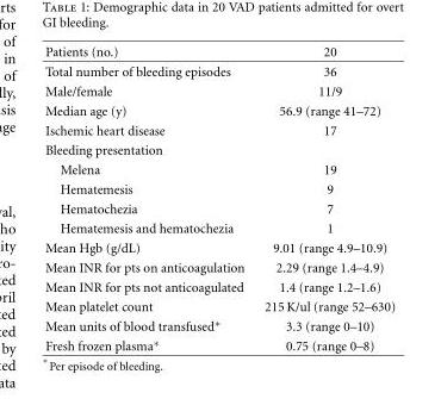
<table><thead><tr><td>Patients (no.)</td><td>20</td></tr></thead><tbody><tr><td>Total number of bleeding episodes</td><td>36</td></tr><tr><td>Male/female</td><td>11/9</td></tr><tr><td>Median age (y)</td><td>56.9 (range 41–72)</td></tr><tr><td>Ischemic heart disease</td><td>17</td></tr><tr><td colspan="2">Bleeding presentation</td></tr><tr><td>Melena</td><td>19</td></tr><tr><td>Hematemesis</td><td>9</td></tr><tr><td>Hematochezia</td><td>7</td></tr><tr><td>Hematemesis and hematochezia</td><td>1</td></tr><tr><td>Mean Hgb (g/dL)</td><td>9.01 (range 4.9–10.9)</td></tr><tr><td>Mean INR for pts on anticoagulation</td><td>2.29 (range 1.4–4.9)</td></tr><tr><td>Mean INR for pts not anticoagulated</td><td>1.4 (range 1.2–1.6)</td></tr><tr><td>Mean platelet count</td><td>215 K/ul (range 52–630)</td></tr><tr><td>Mean units of blood transfused∗</td><td>3.3 (range 0–10)</td></tr><tr><td>Fresh frozen plasma∗</td><td>0.75 (range 0–8)</td></tr></tbody></table>